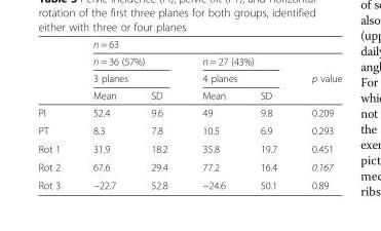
<table><thead><tr><td rowspan="4"></td><td colspan="5">n = 63</td></tr><tr><td rowspan="2" colspan="2">n = 36 (57%) 3 planes</td><td rowspan="2" colspan="2">n = 27 (43%) 4 planes</td><td rowspan="3">p value</td></tr><tr></tr><tr><td>Mean</td><td>SD</td><td>Mean</td><td>SD</td></tr></thead><tbody><tr><td>PI</td><td>52.4</td><td>9.6</td><td>49</td><td>9.8</td><td>0.209</td></tr><tr><td>PT</td><td>8.3</td><td>7.8</td><td>10.5</td><td>6.9</td><td>0.293</td></tr><tr><td>Rot 1</td><td>31.9</td><td>18.2</td><td>35.8</td><td>19.7</td><td>0.451</td></tr><tr><td>Rot 2</td><td>67.6</td><td>29.4</td><td>77.2</td><td>16.4</td><td>0.167</td></tr><tr><td>Rot 3</td><td>−22.7</td><td>52.8</td><td>−24.6</td><td>50.1</td><td>0.89</td></tr></tbody></table>